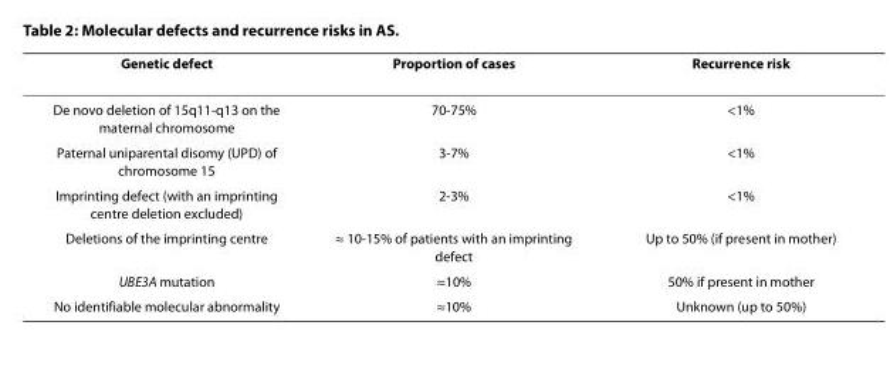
<table><thead><tr><td>Genetic defect</td><td>Proportion of cases</td><td>Recurrence risk</td></tr></thead><tbody><tr><td>De novo deletion of 15q11-q13 on the maternal chromosome</td><td>70-75%</td><td>&lt;1%</td></tr><tr><td>Paternal uniparental disomy (UPD) of chromosome 15</td><td>3-7%</td><td>&lt;1%</td></tr><tr><td>Imprinting defect (with an imprinting centre deletion excluded)</td><td>2-3%</td><td>&lt;1%</td></tr><tr><td>Deletions of the imprinting centre</td><td>≈ 10-15% of patients with an imprinting defect</td><td>Up to 50% (if present in mother)</td></tr><tr><td>UBE3A mutation</td><td>≈10%</td><td>50% if present in mother</td></tr><tr><td>No identifiable molecular abnormality</td><td>≈10%</td><td>Unknown (up to 50%)</td></tr></tbody></table>